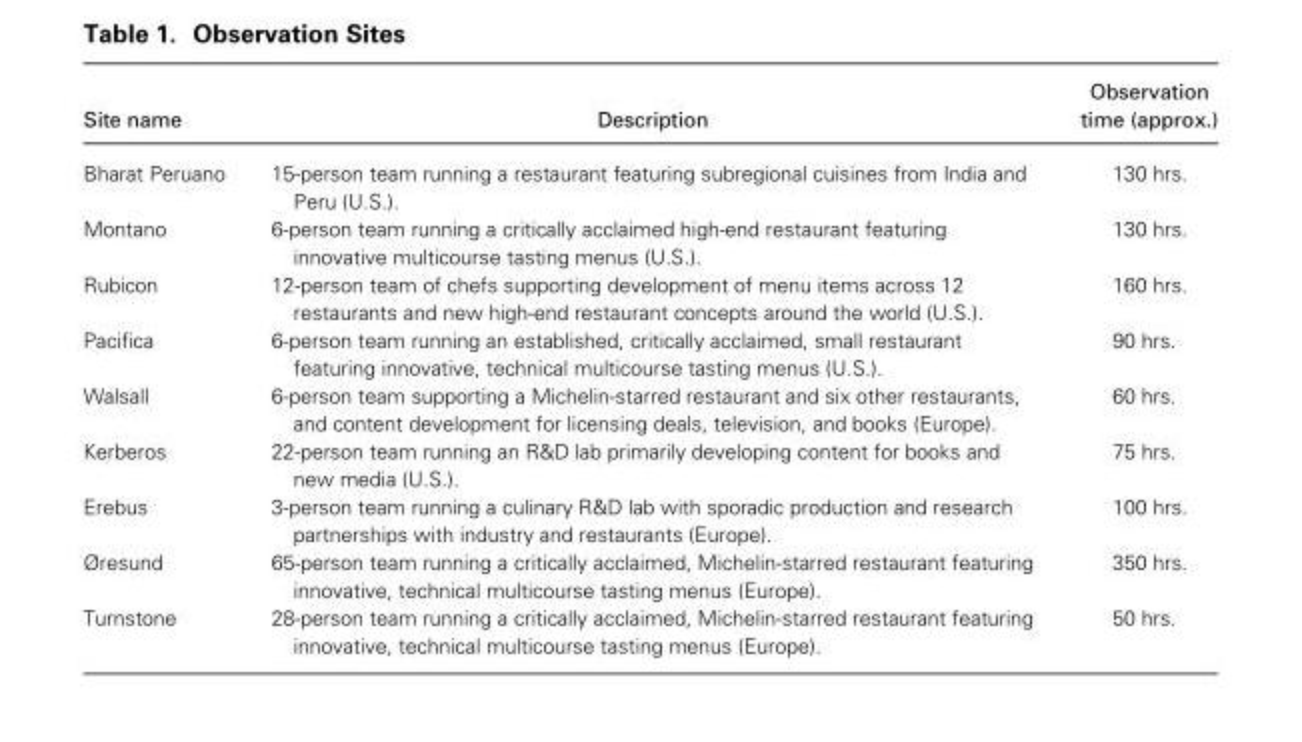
<table><thead><tr><td>Site name</td><td>Description</td><td>Observation time (approx.)</td></tr></thead><tbody><tr><td>Bharat Peruano</td><td>15-person team running a restaurant featuring subregional cuisines from India and Peru (U.S.).</td><td>130 hrs.</td></tr><tr><td>Montano</td><td>6-person team running a critically acclaimed high-end restaurant featuring innovative multicourse tasting menus (U.S.).</td><td>130 hrs.</td></tr><tr><td>Rubicon</td><td>12-person team of chefs supporting development of menu items across 12 restaurants and new high-end restaurant concepts around the world (U.S.).</td><td>160 hrs.</td></tr><tr><td>Pacifica</td><td>6-person team running an established, critically acclaimed, small restaurant featuring innovative, technical multicourse tasting menus (U.S.).</td><td>90 hrs.</td></tr><tr><td>Walsall</td><td>6-person team supporting a Michelin-starred restaurant and six other restaurants, and content development for licensing deals, television, and books (Europe).</td><td>60 hrs.</td></tr><tr><td>Kerberos</td><td>22-person team running an R&amp;D lab primarily developing content for books and new media (U.S.).</td><td>75 hrs.</td></tr><tr><td>Erebus</td><td>3-person team running a culinary R&amp;D lab with sporadic production and research partnerships with industry and restaurants (Europe).</td><td>100 hrs.</td></tr><tr><td>Øresund</td><td>65-person team running a critically acclaimed, Michelin-starred restaurant featuring innovative, technical multicourse tasting menus (Europe).</td><td>350 hrs.</td></tr><tr><td>Turnstone</td><td>28-person team running a critically acclaimed, Michelin-starred restaurant featuring innovative, technical multicourse tasting menus (Europe).</td><td>50 hrs.</td></tr></tbody></table>